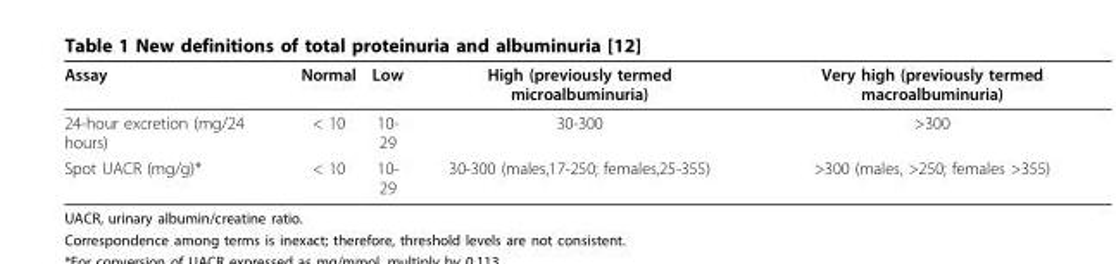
<table><thead><tr><td>Assay</td><td>Normal</td><td>Low</td><td>High (previously termed microalbuminuria)</td><td>Very high (previously termed macroalbuminuria)</td></tr></thead><tbody><tr><td>24-hour excretion (mg/24 hours)</td><td>&lt; 10</td><td>10- 29</td><td>30-300</td><td>&gt;300</td></tr><tr><td>Spot UACR (mg/g)*</td><td>&lt; 10</td><td>10- 29</td><td>30-300 (males,17-250; females,25-355)</td><td>&gt;300 (males, &gt;250; females &gt;355)</td></tr></tbody></table>